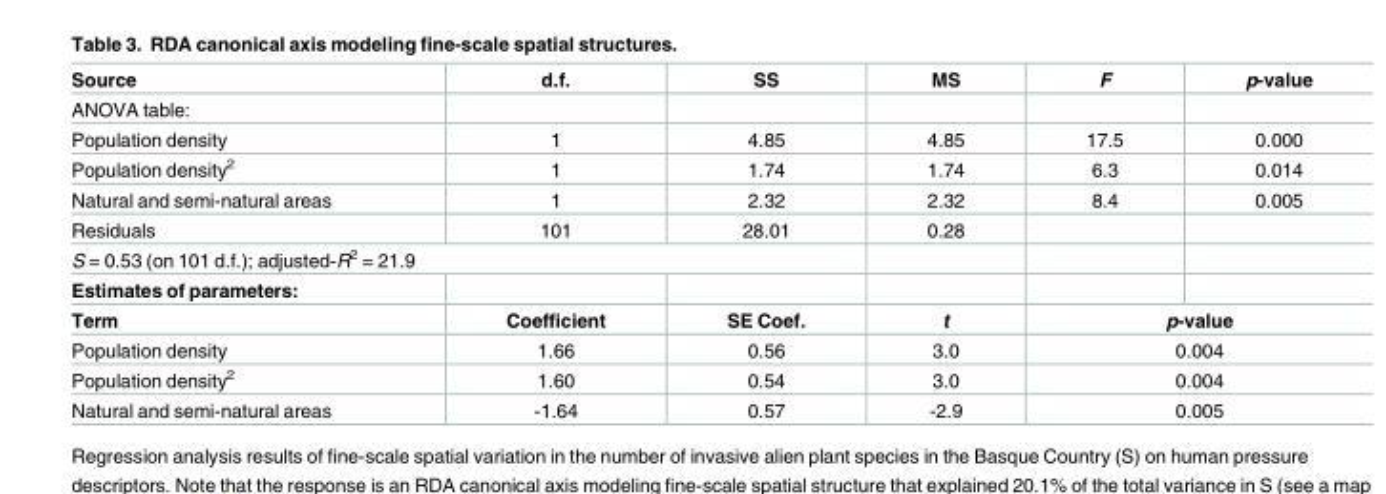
<table><tbody><tr><td>Source</td><td>d.f.</td><td>SS</td><td>MS</td><td>F</td><td>p-value</td></tr><tr><td colspan="6">ANOVA table:</td></tr><tr><td>Population density</td><td>1</td><td>4.85</td><td>4.85</td><td>17.5</td><td>0.000</td></tr><tr><td>Population density<sup>2</sup></td><td>1</td><td>1.74</td><td>1.74</td><td>6.3</td><td>0.014</td></tr><tr><td>Natural and semi-natural areas</td><td>1</td><td>2.32</td><td>2.32</td><td>8.4</td><td>0.005</td></tr><tr><td>Residuals</td><td>101</td><td>28.01</td><td>0.28</td><td></td><td></td></tr><tr><td colspan="6">S = 0.53 (on 101 d.f.); adjusted-R<sup>2</sup> = 21.9</td></tr><tr><td colspan="6">Estimates of parameters:</td></tr><tr><td>Term</td><td>Coefficient</td><td>SE Coef.</td><td>t</td><td colspan="2">p-value</td></tr><tr><td>Population density</td><td>1.66</td><td>0.56</td><td>3.0</td><td colspan="2">0.004</td></tr><tr><td>Population density<sup>2</sup></td><td>1.60</td><td>0.54</td><td>3.0</td><td colspan="2">0.004</td></tr><tr><td>Natural and semi-natural areas</td><td>-1.64</td><td>0.57</td><td>-2.9</td><td colspan="2">0.005</td></tr></tbody></table>